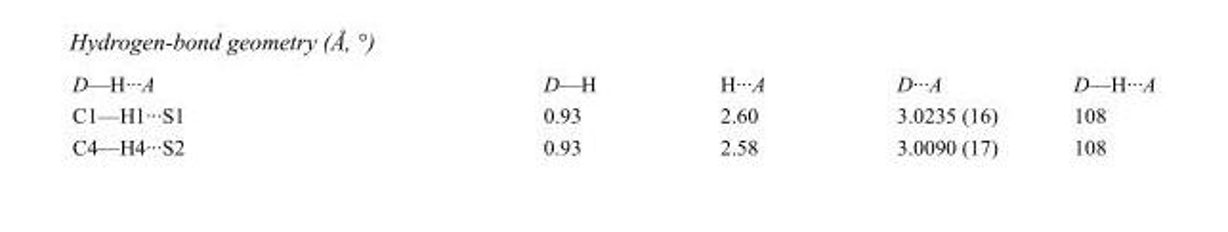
<table><tbody><tr><td>D—H···A</td><td>D—H</td><td>H···A</td><td>D···A</td><td>D—H···A</td></tr><tr><td>C1—H1···S1</td><td>0.93</td><td>2.60</td><td>3.0235 (16)</td><td>108</td></tr><tr><td>C4—H4···S2</td><td>0.93</td><td>2.58</td><td>3.0090 (17)</td><td>108</td></tr></tbody></table>